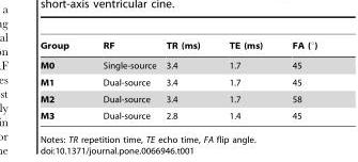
<table><thead><tr><td>Group</td><td>RF</td><td>TR (ms)</td><td>TE (ms)</td><td>FA (°)</td></tr></thead><tbody><tr><td>M0</td><td>Single-source</td><td>3.4</td><td>1.7</td><td>45</td></tr><tr><td>M1</td><td>Dual-source</td><td>3.4</td><td>1.7</td><td>45</td></tr><tr><td>M2</td><td>Dual-source</td><td>3.4</td><td>1.7</td><td>58</td></tr><tr><td>M3</td><td>Dual-source</td><td>2.8</td><td>1.4</td><td>45</td></tr></tbody></table>